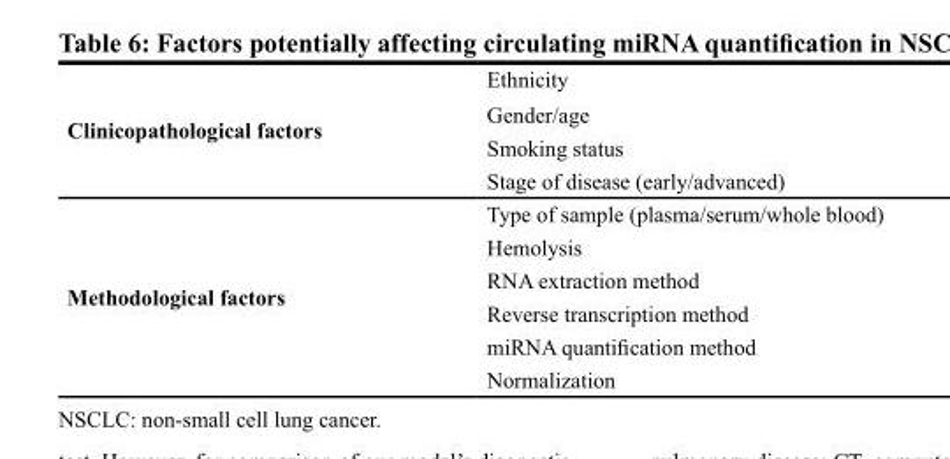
<table><tbody><tr><td rowspan="4">Clinicopathological factors</td><td>Ethnicity</td></tr><tr><td>Gender/age</td></tr><tr><td>Smoking status</td></tr><tr><td>Stage of disease (early/advanced)</td></tr><tr><td rowspan="6">Methodological factors</td><td>Type of sample (plasma/serum/whole blood)</td></tr><tr><td>Hemolysis</td></tr><tr><td>RNA extraction method</td></tr><tr><td>Reverse transcription method</td></tr><tr><td>miRNA quantification method</td></tr><tr><td>Normalization</td></tr></tbody></table>